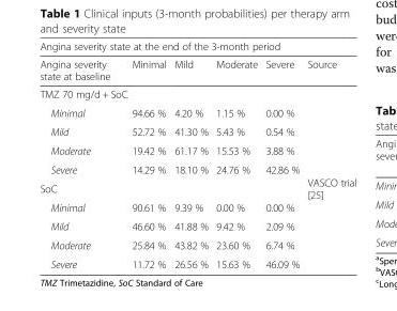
<table><thead><tr><td colspan="6">Angina severity state at the end of the 3-month period</td></tr><tr><td>Angina severity state at baseline</td><td>Minimal</td><td>Mild</td><td>Moderate</td><td>Severe</td><td>Source</td></tr></thead><tbody><tr><td colspan="6">TMZ 70 mg/d + SoC</td></tr><tr><td>Minimal</td><td>94.66 %</td><td>4.20 %</td><td>1.15 %</td><td>0.00 %</td><td rowspan="9">VASCO trial [25]</td></tr><tr><td>Mild</td><td>52.72 %</td><td>41.30 %</td><td>5.43 %</td><td>0.54 %</td></tr><tr><td>Moderate</td><td>19.42 %</td><td>61.17 %</td><td>15.53 %</td><td>3.88 %</td></tr><tr><td>Severe</td><td>14.29 %</td><td>18.10 %</td><td>24.76 %</td><td>42.86 %</td></tr><tr><td colspan="5">SoC</td></tr><tr><td>Minimal</td><td>90.61 %</td><td>9.39 %</td><td>0.00 %</td><td>0.00 %</td></tr><tr><td>Mild</td><td>46.60 %</td><td>41.88 %</td><td>9.42 %</td><td>2.09 %</td></tr><tr><td>Moderate</td><td>25.84 %</td><td>43.82 %</td><td>23.60 %</td><td>6.74 %</td></tr><tr><td>Severe</td><td>11.72 %</td><td>26.56 %</td><td>15.63 %</td><td>46.09 %</td></tr></tbody></table>